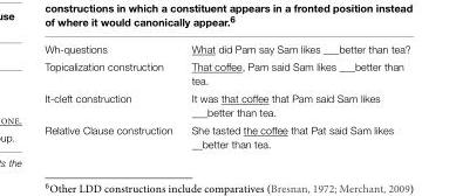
<table><tbody><tr><td>Wh-questions</td><td>What did Pam say Sam likes ___better than tea?</td></tr><tr><td>Topicalization construction</td><td>That coffee, Pam said Sam likes ___better than tea.</td></tr><tr><td>It-cleft construction</td><td>It was that coffee that Pam said Sam likes ___better than tea.</td></tr><tr><td>Relative Clause construction</td><td>She tasted the coffee that Pat said Sam likes __better than tea.</td></tr></tbody></table>